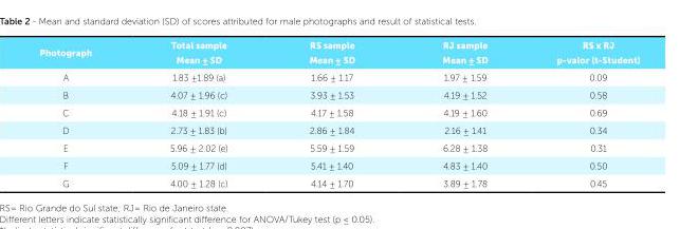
<table><thead><tr><td>Photograph</td><td>Total sample Mean ± SD</td><td>RS sample Mean ± SD</td><td>RJ sample Mean ± SD</td><td>RS x RJ p-valor (t-Student)</td></tr></thead><tbody><tr><td>A</td><td>1.83 ±1.89 (a)</td><td>1.66 ± 1.17</td><td>1.97 ± 1.59</td><td>0.09</td></tr><tr><td>B</td><td>4.07 ± 1.96 (c)</td><td>3.93 ± 1.53</td><td>4.19 ± 1.52</td><td>0.58</td></tr><tr><td>C</td><td>4.18 ± 1.91 (c)</td><td>4.17 ± 1.58</td><td>4.19 ± 1.60</td><td>0.69</td></tr><tr><td>D</td><td>2.73 ± 1.83 (b)</td><td>2.86 ± 1.84</td><td>2.16 ± 1.41</td><td>0.34</td></tr><tr><td>E</td><td>5.96 ± 2.02 (e)</td><td>5.59 ± 1.59</td><td>6.28 ± 1.38</td><td>0.31</td></tr><tr><td>F</td><td>5.09 ± 1.77 (d)</td><td>5.41 ± 1.40</td><td>4.83 ± 1.40</td><td>0.50</td></tr><tr><td>G</td><td>4.00 ± 1.28 (c)</td><td>4.14 ± 1.70</td><td>3.89 ± 1.78</td><td>0.45</td></tr></tbody></table>